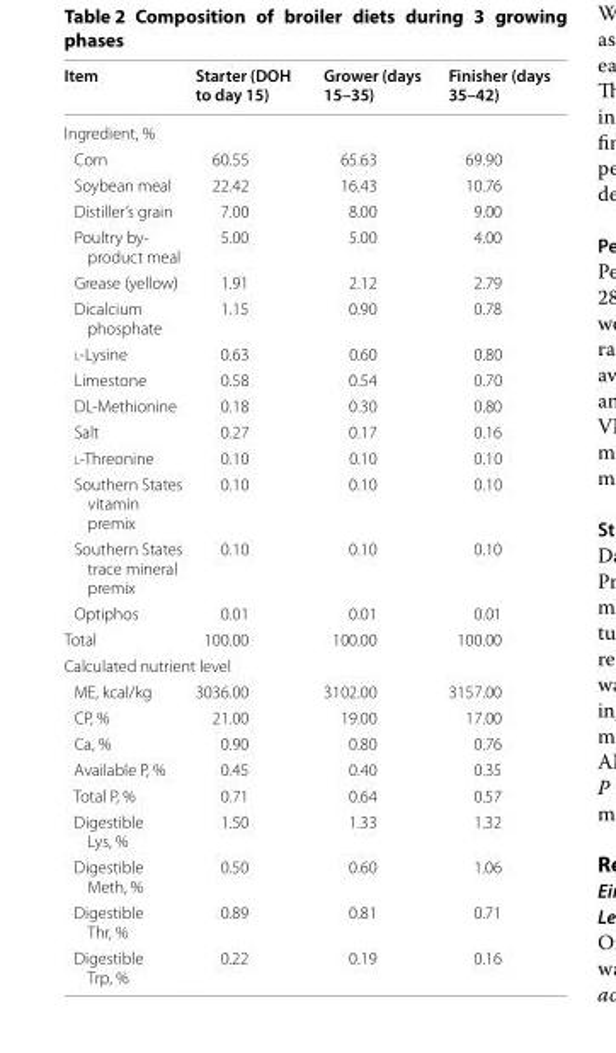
<table><thead><tr><td>Item</td><td>Starter (DOH to day 15)</td><td>Grower (days 15–35)</td><td>Finisher (days 35–42)</td></tr></thead><tbody><tr><td colspan="4">Ingredient, %</td></tr><tr><td>Corn</td><td>60.55</td><td>65.63</td><td>69.90</td></tr><tr><td>Soybean meal</td><td>22.42</td><td>16.43</td><td>10.76</td></tr><tr><td>Distiller’s grain</td><td>7.00</td><td>8.00</td><td>9.00</td></tr><tr><td>Poultry by‑ product meal</td><td>5.00</td><td>5.00</td><td>4.00</td></tr><tr><td>Grease (yellow)</td><td>1.91</td><td>2.12</td><td>2.79</td></tr><tr><td>Dicalcium phosphate</td><td>1.15</td><td>0.90</td><td>0.78</td></tr><tr><td>l‑Lysine</td><td>0.63</td><td>0.60</td><td>0.80</td></tr><tr><td>Limestone</td><td>0.58</td><td>0.54</td><td>0.70</td></tr><tr><td>DL‑Methionine</td><td>0.18</td><td>0.30</td><td>0.80</td></tr><tr><td>Salt</td><td>0.27</td><td>0.17</td><td>0.16</td></tr><tr><td>l‑Threonine</td><td>0.10</td><td>0.10</td><td>0.10</td></tr><tr><td>Southern States vitamin premix</td><td>0.10</td><td>0.10</td><td>0.10</td></tr><tr><td>Southern States trace mineral premix</td><td>0.10</td><td>0.10</td><td>0.10</td></tr><tr><td>Optiphos</td><td>0.01</td><td>0.01</td><td>0.01</td></tr><tr><td>Total</td><td>100.00</td><td>100.00</td><td>100.00</td></tr><tr><td colspan="4">Calculated nutrient level</td></tr><tr><td>ME, kcal/kg</td><td>3036.00</td><td>3102.00</td><td>3157.00</td></tr><tr><td>CP, %</td><td>21.00</td><td>19.00</td><td>17.00</td></tr><tr><td>Ca, %</td><td>0.90</td><td>0.80</td><td>0.76</td></tr><tr><td>Available P, %</td><td>0.45</td><td>0.40</td><td>0.35</td></tr><tr><td>Total P, %</td><td>0.71</td><td>0.64</td><td>0.57</td></tr><tr><td>Digestible Lys, %</td><td>1.50</td><td>1.33</td><td>1.32</td></tr><tr><td>Digestible Meth, %</td><td>0.50</td><td>0.60</td><td>1.06</td></tr><tr><td>Digestible Thr, %</td><td>0.89</td><td>0.81</td><td>0.71</td></tr><tr><td>Digestible Trp, %</td><td>0.22</td><td>0.19</td><td>0.16</td></tr></tbody></table>